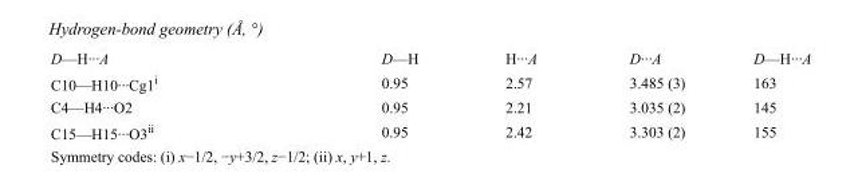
<table><tbody><tr><td>D—H···A</td><td>D—H</td><td>H···A</td><td>D···A</td><td>D—H···A</td></tr><tr><td>C10—H10···Cg1<sup>i</sup></td><td>0.95</td><td>2.57</td><td>3.485 (3)</td><td>163</td></tr><tr><td>C4—H4···O2</td><td>0.95</td><td>2.21</td><td>3.035 (2)</td><td>145</td></tr><tr><td>C15—H15···O3<sup>ii</sup></td><td>0.95</td><td>2.42</td><td>3.303 (2)</td><td>155</td></tr></tbody></table>